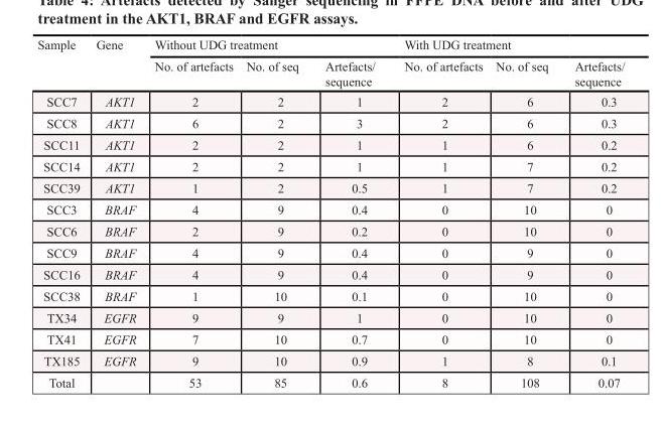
<table><thead><tr><td rowspan="2">Sample</td><td rowspan="2">Gene</td><td colspan="3">Without UDG treatment</td><td colspan="3">With UDG treatment</td></tr><tr><td>No. of artefacts</td><td>No. of seq</td><td>Artefacts/ sequence</td><td>No. of artefacts</td><td>No. of seq</td><td>Artefacts/ sequence</td></tr></thead><tbody><tr><td>SCC7</td><td>AKT1</td><td>2</td><td>2</td><td>1</td><td>2</td><td>6</td><td>0.3</td></tr><tr><td>SCC8</td><td>AKT1</td><td>6</td><td>2</td><td>3</td><td>2</td><td>6</td><td>0.3</td></tr><tr><td>SCC11</td><td>AKT1</td><td>2</td><td>2</td><td>1</td><td>1</td><td>6</td><td>0.2</td></tr><tr><td>SCC14</td><td>AKT1</td><td>2</td><td>2</td><td>1</td><td>1</td><td>7</td><td>0.2</td></tr><tr><td>SCC39</td><td>AKT1</td><td>1</td><td>2</td><td>0.5</td><td>1</td><td>7</td><td>0.2</td></tr><tr><td>SCC3</td><td>BRAF</td><td>4</td><td>9</td><td>0.4</td><td>0</td><td>10</td><td>0</td></tr><tr><td>SCC6</td><td>BRAF</td><td>2</td><td>9</td><td>0.2</td><td>0</td><td>10</td><td>0</td></tr><tr><td>SCC9</td><td>BRAF</td><td>4</td><td>9</td><td>0.4</td><td>0</td><td>9</td><td>0</td></tr><tr><td>SCC16</td><td>BRAF</td><td>4</td><td>9</td><td>0.4</td><td>0</td><td>9</td><td>0</td></tr><tr><td>SCC38</td><td>BRAF</td><td>1</td><td>10</td><td>0.1</td><td>0</td><td>10</td><td>0</td></tr><tr><td>TX34</td><td>EGFR</td><td>9</td><td>9</td><td>1</td><td>0</td><td>10</td><td>0</td></tr><tr><td>TX41</td><td>EGFR</td><td>7</td><td>10</td><td>0.7</td><td>0</td><td>10</td><td>0</td></tr><tr><td>TX185</td><td>EGFR</td><td>9</td><td>10</td><td>0.9</td><td>1</td><td>8</td><td>0.1</td></tr><tr><td>Total</td><td></td><td>53</td><td>85</td><td>0.6</td><td>8</td><td>108</td><td>0.07</td></tr></tbody></table>